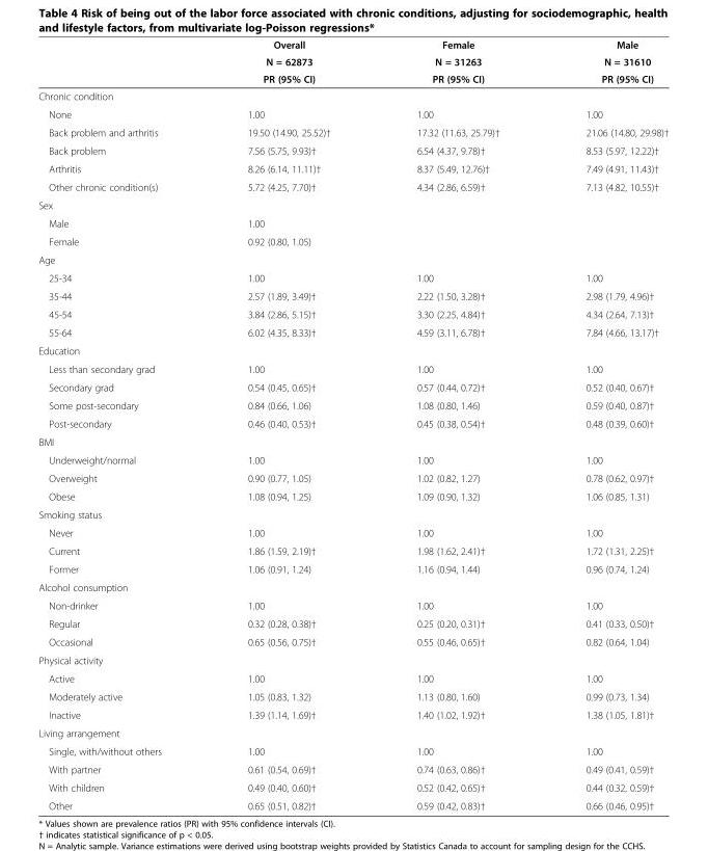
<table><thead><tr><td rowspan="3"></td><td rowspan="3">Overall N = 62873 PR (95% CI)</td><td rowspan="3">Female N = 31263 PR (95% CI)</td><td rowspan="3">Male N = 31610 PR (95% CI)</td></tr><tr></tr><tr></tr></thead><tbody><tr><td colspan="4">Chronic condition</td></tr><tr><td>None</td><td>1.00</td><td>1.00</td><td>1.00</td></tr><tr><td>Back problem and arthritis</td><td>19.50 (14.90, 25.52)†</td><td>17.32 (11.63, 25.79)†</td><td>21.06 (14.80, 29.98)†</td></tr><tr><td>Back problem</td><td>7.56 (5.75, 9.93)†</td><td>6.54 (4.37, 9.78)†</td><td>8.53 (5.97, 12.22)†</td></tr><tr><td>Arthritis</td><td>8.26 (6.14, 11.11)†</td><td>8.37 (5.49, 12.76)†</td><td>7.49 (4.91, 11.43)†</td></tr><tr><td>Other chronic condition(s)</td><td>5.72 (4.25, 7.70)†</td><td>4.34 (2.86, 6.59)†</td><td>7.13 (4.82, 10.55)†</td></tr><tr><td colspan="4">Sex</td></tr><tr><td>Male</td><td>1.00</td><td></td><td></td></tr><tr><td>Female</td><td>0.92 (0.80, 1.05)</td><td></td><td></td></tr><tr><td colspan="4">Age</td></tr><tr><td>25-34</td><td>1.00</td><td>1.00</td><td>1.00</td></tr><tr><td>35-44</td><td>2.57 (1.89, 3.49)†</td><td>2.22 (1.50, 3.28)†</td><td>2.98 (1.79, 4.96)†</td></tr><tr><td>45-54</td><td>3.84 (2.86, 5.15)†</td><td>3.30 (2.25, 4.84)†</td><td>4.34 (2.64, 7.13)†</td></tr><tr><td>55-64</td><td>6.02 (4.35, 8.33)†</td><td>4.59 (3.11, 6.78)†</td><td>7.84 (4.66, 13.17)†</td></tr><tr><td colspan="4">Education</td></tr><tr><td>Less than secondary grad</td><td>1.00</td><td>1.00</td><td>1.00</td></tr><tr><td>Secondary grad</td><td>0.54 (0.45, 0.65)†</td><td>0.57 (0.44, 0.72)†</td><td>0.52 (0.40, 0.67)†</td></tr><tr><td>Some post-secondary</td><td>0.84 (0.66, 1.06)</td><td>1.08 (0.80, 1.46)</td><td>0.59 (0.40, 0.87)†</td></tr><tr><td>Post-secondary</td><td>0.46 (0.40, 0.53)†</td><td>0.45 (0.38, 0.54)†</td><td>0.48 (0.39, 0.60)†</td></tr><tr><td colspan="4">BMI</td></tr><tr><td>Underweight/normal</td><td>1.00</td><td>1.00</td><td>1.00</td></tr><tr><td>Overweight</td><td>0.90 (0.77, 1.05)</td><td>1.02 (0.82, 1.27)</td><td>0.78 (0.62, 0.97)†</td></tr><tr><td>Obese</td><td>1.08 (0.94, 1.25)</td><td>1.09 (0.90, 1.32)</td><td>1.06 (0.85, 1.31)</td></tr><tr><td colspan="4">Smoking status</td></tr><tr><td>Never</td><td>1.00</td><td>1.00</td><td>1.00</td></tr><tr><td>Current</td><td>1.86 (1.59, 2.19)†</td><td>1.98 (1.62, 2.41)†</td><td>1.72 (1.31, 2.25)†</td></tr><tr><td>Former</td><td>1.06 (0.91, 1.24)</td><td>1.16 (0.94, 1.44)</td><td>0.96 (0.74, 1.24)</td></tr><tr><td colspan="4">Alcohol consumption</td></tr><tr><td>Non-drinker</td><td>1.00</td><td>1.00</td><td>1.00</td></tr><tr><td>Regular</td><td>0.32 (0.28, 0.38)†</td><td>0.25 (0.20, 0.31)†</td><td>0.41 (0.33, 0.50)†</td></tr><tr><td>Occasional</td><td>0.65 (0.56, 0.75)†</td><td>0.55 (0.46, 0.65)†</td><td>0.82 (0.64, 1.04)</td></tr><tr><td colspan="4">Physical activity</td></tr><tr><td>Active</td><td>1.00</td><td>1.00</td><td>1.00</td></tr><tr><td>Moderately active</td><td>1.05 (0.83, 1.32)</td><td>1.13 (0.80, 1.60)</td><td>0.99 (0.73, 1.34)</td></tr><tr><td>Inactive</td><td>1.39 (1.14, 1.69)†</td><td>1.40 (1.02, 1.92)†</td><td>1.38 (1.05, 1.81)†</td></tr><tr><td colspan="4">Living arrangement</td></tr><tr><td>Single, with/without others</td><td>1.00</td><td>1.00</td><td>1.00</td></tr><tr><td>With partner</td><td>0.61 (0.54, 0.69)†</td><td>0.74 (0.63, 0.86)†</td><td>0.49 (0.41, 0.59)†</td></tr><tr><td>With children</td><td>0.49 (0.40, 0.60)†</td><td>0.52 (0.42, 0.65)†</td><td>0.44 (0.32, 0.59)†</td></tr><tr><td>Other</td><td>0.65 (0.51, 0.82)†</td><td>0.59 (0.42, 0.83)†</td><td>0.66 (0.46, 0.95)†</td></tr></tbody></table>